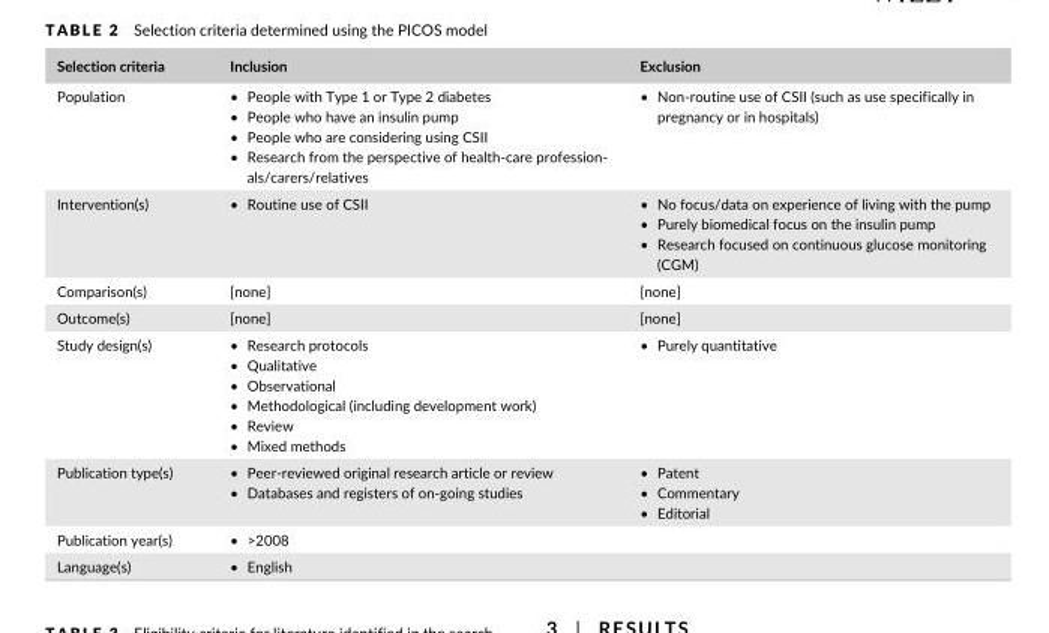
<table><thead><tr><td>Selection criteria</td><td>Inclusion</td><td>Exclusion</td></tr></thead><tbody><tr><td>Population</td><td>• People with Type 1 or Type 2 diabetes • People who have an insulin pump • People who are considering using CSII • Research from the perspective of health-care profession- als/carers/relatives</td><td>• Non-routine use of CSII (such as use specifically in pregnancy or in hospitals)</td></tr><tr><td>Intervention(s)</td><td>• Routine use of CSII</td><td>• No focus/data on experience of living with the pump • Purely biomedical focus on the insulin pump • Research focused on continuous glucose monitoring (CGM)</td></tr><tr><td>Comparison(s)</td><td>[none]</td><td>[none]</td></tr><tr><td>Outcome(s)</td><td>[none]</td><td>[none]</td></tr><tr><td>Study design(s)</td><td>• Research protocols • Qualitative • Observational • Methodological (including development work) • Review • Mixed methods</td><td>• Purely quantitative</td></tr><tr><td>Publication type(s)</td><td>• Peer-reviewed original research article or review • Databases and registers of on-going studies</td><td>• Patent • Commentary • Editorial</td></tr><tr><td>Publication year(s)</td><td>• &gt;2008</td><td></td></tr><tr><td>Language(s)</td><td>• English</td><td></td></tr></tbody></table>